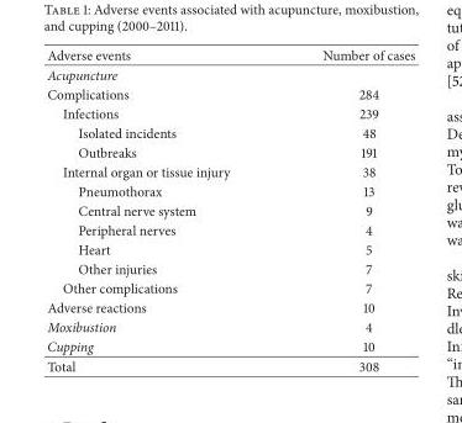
<table><thead><tr><td>Adverse events</td><td>Number of cases</td></tr></thead><tbody><tr><td colspan="2">Acupuncture</td></tr><tr><td>Complications</td><td>284</td></tr><tr><td>Infections</td><td>239</td></tr><tr><td>Isolated incidents</td><td>48</td></tr><tr><td>Outbreaks</td><td>191</td></tr><tr><td>Internal organ or tissue injury</td><td>38</td></tr><tr><td>Pneumothorax</td><td>13</td></tr><tr><td>Central nerve system</td><td>9</td></tr><tr><td>Peripheral nerves</td><td>4</td></tr><tr><td>Heart</td><td>5</td></tr><tr><td>Other injuries</td><td>7</td></tr><tr><td>Other complications</td><td>7</td></tr><tr><td>Adverse reactions</td><td>10</td></tr><tr><td>Moxibustion</td><td>4</td></tr><tr><td>Cupping</td><td>10</td></tr><tr><td>Total</td><td>308</td></tr></tbody></table>